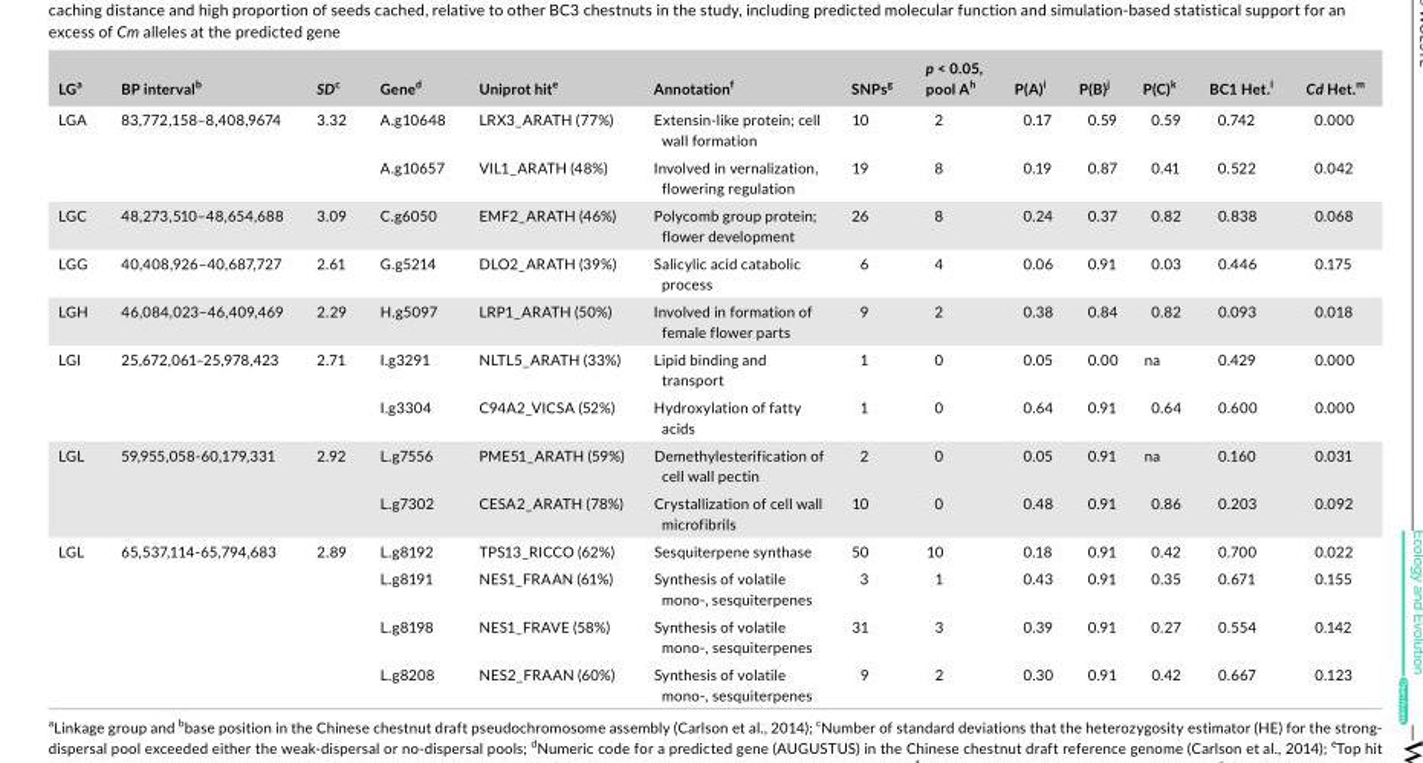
<table><thead><tr><td>LG<sup>a</sup></td><td>BP interval<sup>b</sup></td><td>SDc</td><td>Gene<sup>d</sup></td><td>Uniprot hit<sup>e</sup></td><td>Annotation<sup>f</sup></td><td>SNPs<sup>g</sup></td><td>p &lt; 0.05, pool A<sup>h</sup></td><td>P(A)<sup>i</sup></td><td>P(B)<sup>j</sup></td><td>P(C)<sup>k</sup></td><td>BC1 Het.<sup>l</sup></td><td>Cd Het.<sup>m</sup></td></tr></thead><tbody><tr><td rowspan="2">LGA</td><td rowspan="2">83,772,158–8,408,9674</td><td rowspan="2">3.32</td><td>A.g10648</td><td>LRX3_ARATH (77%)</td><td>Extensin- like protein; cell wall formation</td><td>10</td><td>2</td><td>0.17</td><td>0.59</td><td>0.59</td><td>0.742</td><td>0.000</td></tr><tr><td>A.g10657</td><td>VIL1_ARATH (48%)</td><td>Involved in vernalization, flowering regulation</td><td>19</td><td>8</td><td>0.19</td><td>0.87</td><td>0.41</td><td>0.522</td><td>0.042</td></tr><tr><td>LGC</td><td>48,273,510–48,654,688</td><td>3.09</td><td>C.g6050</td><td>EMF2_ARATH (46%)</td><td>Polycomb group protein; flower development</td><td>26</td><td>8</td><td>0.24</td><td>0.37</td><td>0.82</td><td>0.838</td><td>0.068</td></tr><tr><td>LGG</td><td>40,408,926–40,687,727</td><td>2.61</td><td>G.g5214</td><td>DLO2_ARATH (39%)</td><td>Salicylic acid catabolic process</td><td>6</td><td>4</td><td>0.06</td><td>0.91</td><td>0.03</td><td>0.446</td><td>0.175</td></tr><tr><td>LGH</td><td>46,084,023–46,409,469</td><td>2.29</td><td>H.g5097</td><td>LRP1_ARATH (50%)</td><td>Involved in formation of female flower parts</td><td>9</td><td>2</td><td>0.38</td><td>0.84</td><td>0.82</td><td>0.093</td><td>0.018</td></tr><tr><td rowspan="2">LGI</td><td rowspan="2">25,672,061–25,978,423</td><td rowspan="2">2.71</td><td>I.g3291</td><td>NLTL5_ARATH (33%)</td><td>Lipid binding and transport</td><td>1</td><td>0</td><td>0.05</td><td>0.00</td><td>na</td><td>0.429</td><td>0.000</td></tr><tr><td>I.g3304</td><td>C94A2_VICSA (52%)</td><td>Hydroxylation of fatty acids</td><td>1</td><td>0</td><td>0.64</td><td>0.91</td><td>0.64</td><td>0.600</td><td>0.000</td></tr><tr><td rowspan="2">LGL</td><td rowspan="2">59,955,058- 60,179,331</td><td rowspan="2">2.92</td><td>L.g7556</td><td>PME51_ARATH (59%)</td><td>Demethylesterification of cell wall pectin</td><td>2</td><td>0</td><td>0.05</td><td>0.91</td><td>na</td><td>0.160</td><td>0.031</td></tr><tr><td>L.g7302</td><td>CESA2_ARATH (78%)</td><td>Crystallization of cell wall microfibrils</td><td>10</td><td>0</td><td>0.48</td><td>0.91</td><td>0.86</td><td>0.203</td><td>0.092</td></tr><tr><td rowspan="4">LGL</td><td rowspan="4">65,537,114- 65,794,683</td><td rowspan="4">2.89</td><td>L.g8192</td><td>TPS13_RICCO (62%)</td><td>Sesquiterpene synthase</td><td>50</td><td>10</td><td>0.18</td><td>0.91</td><td>0.42</td><td>0.700</td><td>0.022</td></tr><tr><td>L.g8191</td><td>NES1_FRAAN (61%)</td><td>Synthesis of volatile mono- , sesquiterpenes</td><td>3</td><td>1</td><td>0.43</td><td>0.91</td><td>0.35</td><td>0.671</td><td>0.155</td></tr><tr><td>L.g8198</td><td>NES1_FRAVE (58%)</td><td>Synthesis of volatile mono- , sesquiterpenes</td><td>31</td><td>3</td><td>0.39</td><td>0.91</td><td>0.27</td><td>0.554</td><td>0.142</td></tr><tr><td>L.g8208</td><td>NES2_FRAAN (60%)</td><td>Synthesis of volatile mono- , sesquiterpenes</td><td>9</td><td>2</td><td>0.30</td><td>0.91</td><td>0.42</td><td>0.667</td><td>0.123</td></tr></tbody></table>